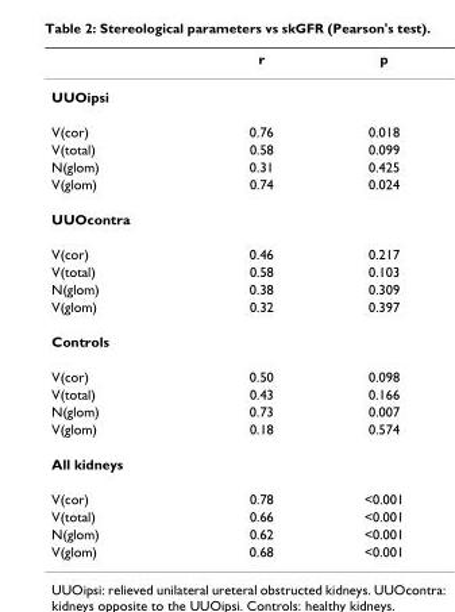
<table><thead><tr><td></td><td>r</td><td>p</td></tr></thead><tbody><tr><td colspan="3">UUOipsi</td></tr><tr><td>V(cor)</td><td>0.76</td><td>0.018</td></tr><tr><td>V(total)</td><td>0.58</td><td>0.099</td></tr><tr><td>N(glom)</td><td>0.31</td><td>0.425</td></tr><tr><td>V(glom)</td><td>0.74</td><td>0.024</td></tr><tr><td colspan="3">UUOcontra</td></tr><tr><td>V(cor)</td><td>0.46</td><td>0.217</td></tr><tr><td>V(total)</td><td>0.58</td><td>0.103</td></tr><tr><td>N(glom)</td><td>0.38</td><td>0.309</td></tr><tr><td>V(glom)</td><td>0.32</td><td>0.397</td></tr><tr><td colspan="3">Controls</td></tr><tr><td>V(cor)</td><td>0.50</td><td>0.098</td></tr><tr><td>V(total)</td><td>0.43</td><td>0.166</td></tr><tr><td>N(glom)</td><td>0.73</td><td>0.007</td></tr><tr><td>V(glom)</td><td>0.18</td><td>0.574</td></tr><tr><td colspan="3">All kidneys</td></tr><tr><td>V(cor)</td><td>0.78</td><td>&lt;0.001</td></tr><tr><td>V(total)</td><td>0.66</td><td>&lt;0.001</td></tr><tr><td>N(glom)</td><td>0.62</td><td>&lt;0.001</td></tr><tr><td>V(glom)</td><td>0.68</td><td>&lt;0.001</td></tr></tbody></table>